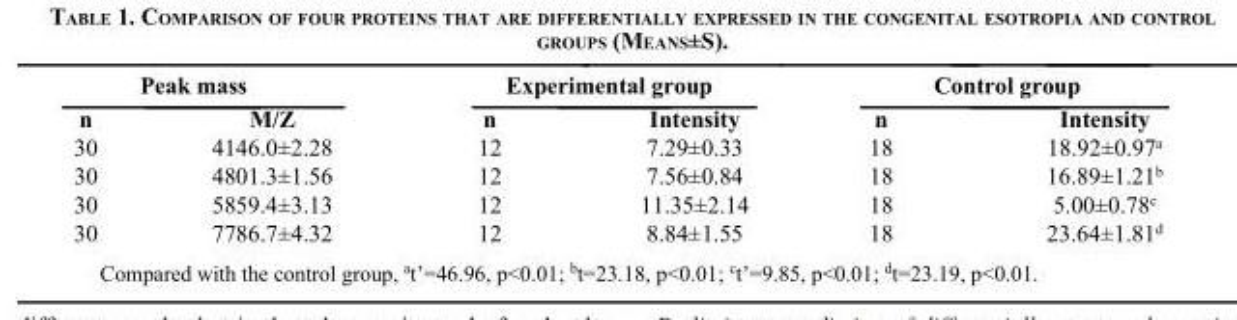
<table><thead><tr><td colspan="2">Peak mass</td><td colspan="2">Experimental group</td><td colspan="2">Control group</td></tr><tr><td>n</td><td>M/Z</td><td>n</td><td>Intensity</td><td>n</td><td>Intensity</td></tr></thead><tbody><tr><td>30</td><td>4146.0±2.28</td><td>12</td><td>7.29±0.33</td><td>18</td><td>18.92±0.97<sup>a</sup></td></tr><tr><td>30</td><td>4801.3±1.56</td><td>12</td><td>7.56±0.84</td><td>18</td><td>16.89±1.21<sup>b</sup></td></tr><tr><td>30</td><td>5859.4±3.13</td><td>12</td><td>11.35±2.14</td><td>18</td><td>5.00±0.78<sup>c</sup></td></tr><tr><td>30</td><td>7786.7±4.32</td><td>12</td><td>8.84±1.55</td><td>18</td><td>23.64±1.81<sup>d</sup></td></tr></tbody></table>